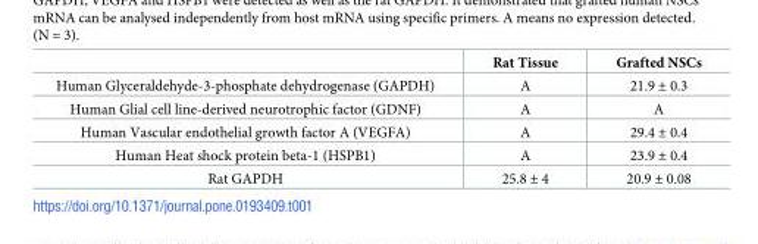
<table><thead><tr><td></td><td>Rat Tissue</td><td>Grafted NSCs</td></tr></thead><tbody><tr><td>Human Glyceraldehyde-3-phosphate dehydrogenase (GAPDH)</td><td>A</td><td>21.9 ± 0.3</td></tr><tr><td>Human Glial cell line-derived neurotrophic factor (GDNF)</td><td>A</td><td>A</td></tr><tr><td>Human Vascular endothelial growth factor A (VEGFA)</td><td>A</td><td>29.4 ± 0.4</td></tr><tr><td>Human Heat shock protein beta-1 (HSPB1)</td><td>A</td><td>23.9 ± 0.4</td></tr><tr><td>Rat GAPDH</td><td>25.8 ± 4</td><td>20.9 ± 0.08</td></tr></tbody></table>